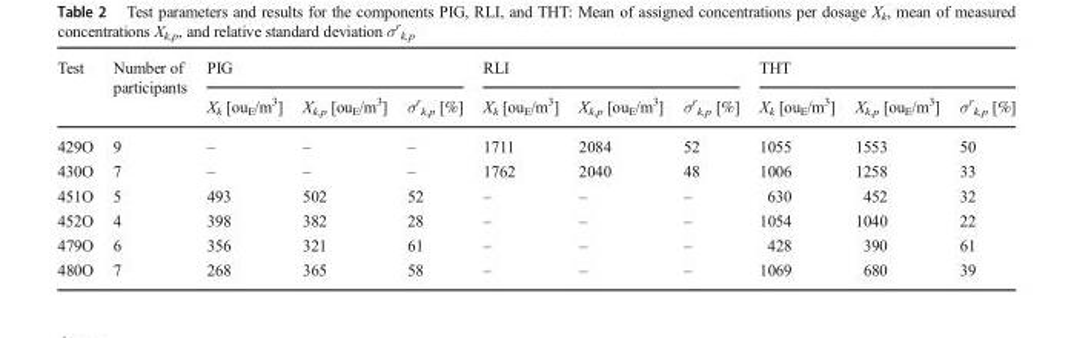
<table><thead><tr><td rowspan="2">Test</td><td rowspan="2">Number of participants</td><td colspan="3">PIG</td><td colspan="3">RLI</td><td colspan="3">THT</td></tr><tr><td>X<sub>k</sub> [ou<sub>E</sub>/m<sup>3</sup>]</td><td>X<sub>k,p</sub> [ou<sub>E</sub>/m<sup>3</sup>]</td><td>σ<sup>r</sup> <sub>k,p</sub> [%]</td><td>X<sub>k</sub> [ou<sub>E</sub>/m<sup>3</sup>]</td><td>X<sub>k,p</sub> [ou<sub>E</sub>/m<sup>3</sup>]</td><td>σ<sup>r</sup> <sub>k,p</sub> [%]</td><td>X<sub>k</sub> [ou<sub>E</sub>/m<sup>3</sup>]</td><td>X<sub>k,p</sub> [ou<sub>E</sub>/m<sup>3</sup>]</td><td>σ<sup>r</sup> <sub>k,p</sub> [%]</td></tr></thead><tbody><tr><td>429O</td><td>9</td><td>–</td><td>–</td><td>–</td><td>1711</td><td>2084</td><td>52</td><td>1055</td><td>1553</td><td>50</td></tr><tr><td>430O</td><td>7</td><td>–</td><td>–</td><td>–</td><td>1762</td><td>2040</td><td>48</td><td>1006</td><td>1258</td><td>33</td></tr><tr><td>451O</td><td>5</td><td>493</td><td>502</td><td>52</td><td>–</td><td>–</td><td>–</td><td>630</td><td>452</td><td>32</td></tr><tr><td>452O</td><td>4</td><td>398</td><td>382</td><td>28</td><td>–</td><td>–</td><td>–</td><td>1054</td><td>1040</td><td>22</td></tr><tr><td>479O</td><td>6</td><td>356</td><td>321</td><td>61</td><td>–</td><td>–</td><td>–</td><td>428</td><td>390</td><td>61</td></tr><tr><td>480O</td><td>7</td><td>268</td><td>365</td><td>58</td><td>–</td><td>–</td><td>–</td><td>1069</td><td>680</td><td>39</td></tr></tbody></table>